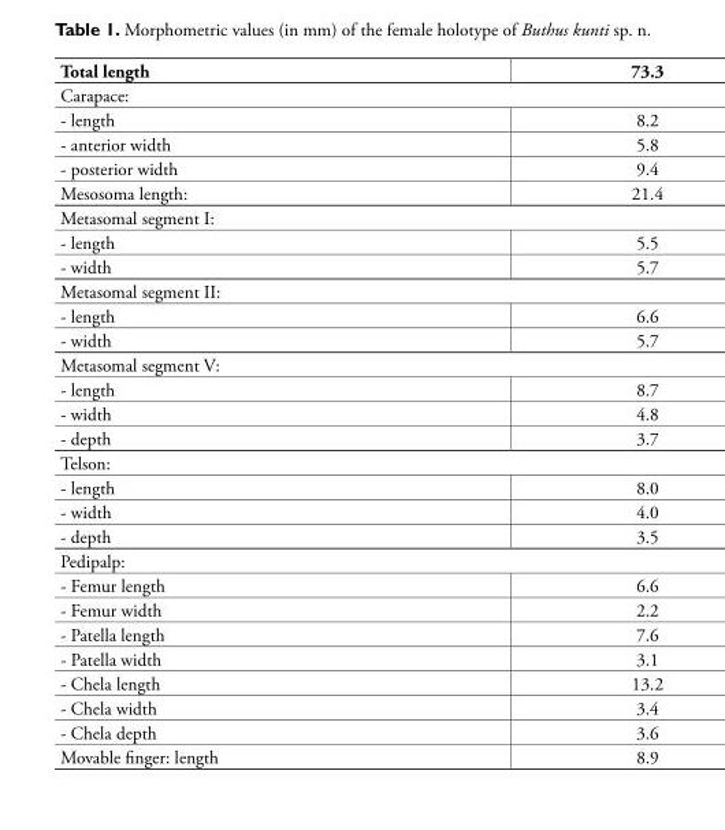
<table><thead><tr><td>Total length</td><td>73.3</td></tr></thead><tbody><tr><td colspan="2">Carapace:</td></tr><tr><td>- length</td><td>8.2</td></tr><tr><td>- anterior width</td><td>5.8</td></tr><tr><td>- posterior width</td><td>9.4</td></tr><tr><td>Mesosoma length:</td><td>21.4</td></tr><tr><td colspan="2">Metasomal segment I:</td></tr><tr><td>- length</td><td>5.5</td></tr><tr><td>- width</td><td>5.7</td></tr><tr><td colspan="2">Metasomal segment II:</td></tr><tr><td>- length</td><td>6.6</td></tr><tr><td>- width</td><td>5.7</td></tr><tr><td colspan="2">Metasomal segment V:</td></tr><tr><td>- length</td><td>8.7</td></tr><tr><td>- width</td><td>4.8</td></tr><tr><td>- depth</td><td>3.7</td></tr><tr><td colspan="2">Telson:</td></tr><tr><td>- length</td><td>8.0</td></tr><tr><td>- width</td><td>4.0</td></tr><tr><td>- depth</td><td>3.5</td></tr><tr><td colspan="2">Pedipalp:</td></tr><tr><td>- Femur length</td><td>6.6</td></tr><tr><td>- Femur width</td><td>2.2</td></tr><tr><td>- Patella length</td><td>7.6</td></tr><tr><td>- Patella width</td><td>3.1</td></tr><tr><td>- Chela length</td><td>13.2</td></tr><tr><td>- Chela width</td><td>3.4</td></tr><tr><td>- Chela depth</td><td>3.6</td></tr><tr><td>Movable finger: length</td><td>8.9</td></tr></tbody></table>